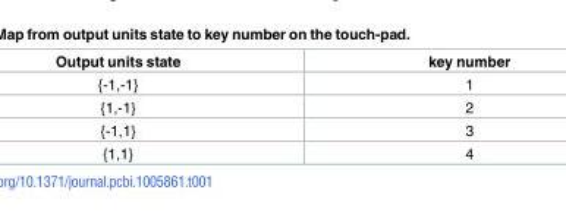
<table><thead><tr><td>Output units state</td><td>key number</td></tr></thead><tbody><tr><td>{-1,-1}</td><td>1</td></tr><tr><td>{1,-1}</td><td>2</td></tr><tr><td>{-1,1}</td><td>3</td></tr><tr><td>{1,1}</td><td>4</td></tr></tbody></table>